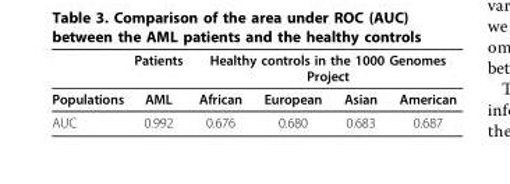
<table><thead><tr><td rowspan="2">Populations</td><td rowspan="2">Patients AML</td><td colspan="4">Healthy controls in the 1000 Genomes Project</td></tr><tr><td>African</td><td>European</td><td>Asian</td><td>American</td></tr></thead><tbody><tr><td>AUC</td><td>0.992</td><td>0.676</td><td>0.680</td><td>0.683</td><td>0.687</td></tr></tbody></table>